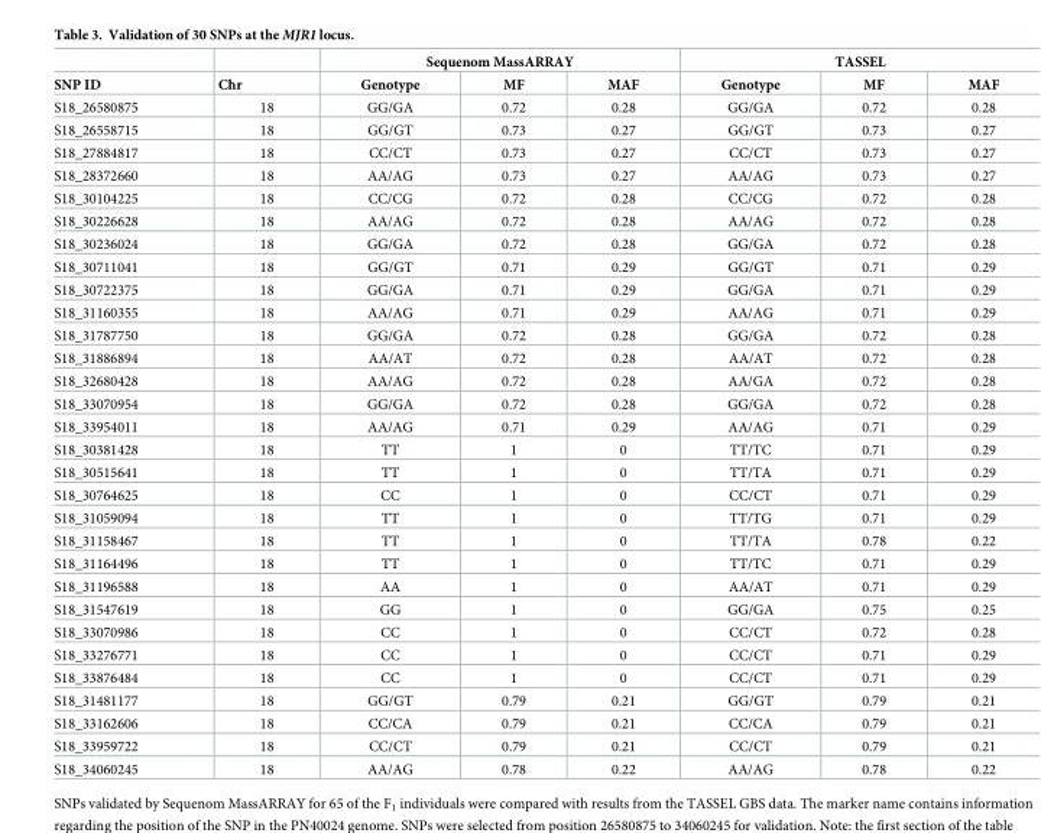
<table><thead><tr><td rowspan="2">SNP ID</td><td rowspan="2">Chr</td><td colspan="3">Sequenom MassARRAY</td><td colspan="3">TASSEL</td></tr><tr><td>Genotype</td><td>MF</td><td>MAF</td><td>Genotype</td><td>MF</td><td>MAF</td></tr></thead><tbody><tr><td>S18_26580875</td><td>18</td><td>GG/GA</td><td>0.72</td><td>0.28</td><td>GG/GA</td><td>0.72</td><td>0.28</td></tr><tr><td>S18_26558715</td><td>18</td><td>GG/GT</td><td>0.73</td><td>0.27</td><td>GG/GT</td><td>0.73</td><td>0.27</td></tr><tr><td>S18_27884817</td><td>18</td><td>CC/CT</td><td>0.73</td><td>0.27</td><td>CC/CT</td><td>0.73</td><td>0.27</td></tr><tr><td>S18_28372660</td><td>18</td><td>AA/AG</td><td>0.73</td><td>0.27</td><td>AA/AG</td><td>0.73</td><td>0.27</td></tr><tr><td>S18_30104225</td><td>18</td><td>CC/CG</td><td>0.72</td><td>0.28</td><td>CC/CG</td><td>0.72</td><td>0.28</td></tr><tr><td>S18_30226628</td><td>18</td><td>AA/AG</td><td>0.72</td><td>0.28</td><td>AA/AG</td><td>0.72</td><td>0.28</td></tr><tr><td>S18_30236024</td><td>18</td><td>GG/GA</td><td>0.72</td><td>0.28</td><td>GG/GA</td><td>0.72</td><td>0.28</td></tr><tr><td>S18_30711041</td><td>18</td><td>GG/GT</td><td>0.71</td><td>0.29</td><td>GG/GT</td><td>0.71</td><td>0.29</td></tr><tr><td>S18_30722375</td><td>18</td><td>GG/GA</td><td>0.71</td><td>0.29</td><td>GG/GA</td><td>0.71</td><td>0.29</td></tr><tr><td>S18_31160355</td><td>18</td><td>AA/AG</td><td>0.71</td><td>0.29</td><td>AA/AG</td><td>0.71</td><td>0.29</td></tr><tr><td>S18_31787750</td><td>18</td><td>GG/GA</td><td>0.72</td><td>0.28</td><td>GG/GA</td><td>0.72</td><td>0.28</td></tr><tr><td>S18_31886894</td><td>18</td><td>AA/AT</td><td>0.72</td><td>0.28</td><td>AA/AT</td><td>0.72</td><td>0.28</td></tr><tr><td>S18_32680428</td><td>18</td><td>AA/AG</td><td>0.72</td><td>0.28</td><td>AA/GA</td><td>0.72</td><td>0.28</td></tr><tr><td>S18_33070954</td><td>18</td><td>GG/GA</td><td>0.72</td><td>0.28</td><td>GG/GA</td><td>0.72</td><td>0.28</td></tr><tr><td>S18_33954011</td><td>18</td><td>AA/AG</td><td>0.71</td><td>0.29</td><td>AA/AG</td><td>0.71</td><td>0.29</td></tr><tr><td>S18_30381428</td><td>18</td><td>TT</td><td>1</td><td>0</td><td>TT/TC</td><td>0.71</td><td>0.29</td></tr><tr><td>S18_30515641</td><td>18</td><td>TT</td><td>1</td><td>0</td><td>TT/TA</td><td>0.71</td><td>0.29</td></tr><tr><td>S18_30764625</td><td>18</td><td>CC</td><td>1</td><td>0</td><td>CC/CT</td><td>0.71</td><td>0.29</td></tr><tr><td>S18_31059094</td><td>18</td><td>TT</td><td>1</td><td>0</td><td>TT/TG</td><td>0.71</td><td>0.29</td></tr><tr><td>S18_31158467</td><td>18</td><td>TT</td><td>1</td><td>0</td><td>TT/TA</td><td>0.78</td><td>0.22</td></tr><tr><td>S18_31164496</td><td>18</td><td>TT</td><td>1</td><td>0</td><td>TT/TC</td><td>0.71</td><td>0.29</td></tr><tr><td>S18_31196588</td><td>18</td><td>AA</td><td>1</td><td>0</td><td>AA/AT</td><td>0.71</td><td>0.29</td></tr><tr><td>S18_31547619</td><td>18</td><td>GG</td><td>1</td><td>0</td><td>GG/GA</td><td>0.75</td><td>0.25</td></tr><tr><td>S18_33070986</td><td>18</td><td>CC</td><td>1</td><td>0</td><td>CC/CT</td><td>0.72</td><td>0.28</td></tr><tr><td>S18_33276771</td><td>18</td><td>CC</td><td>1</td><td>0</td><td>CC/CT</td><td>0.71</td><td>0.29</td></tr><tr><td>S18_33876484</td><td>18</td><td>CC</td><td>1</td><td>0</td><td>CC/CT</td><td>0.71</td><td>0.29</td></tr><tr><td>S18_31481177</td><td>18</td><td>GG/GT</td><td>0.79</td><td>0.21</td><td>GG/GT</td><td>0.79</td><td>0.21</td></tr><tr><td>S18_33162606</td><td>18</td><td>CC/CA</td><td>0.79</td><td>0.21</td><td>CC/CA</td><td>0.79</td><td>0.21</td></tr><tr><td>S18_33959722</td><td>18</td><td>CC/CT</td><td>0.79</td><td>0.21</td><td>CC/CT</td><td>0.79</td><td>0.21</td></tr><tr><td>S18_34060245</td><td>18</td><td>AA/AG</td><td>0.78</td><td>0.22</td><td>AA/AG</td><td>0.78</td><td>0.22</td></tr></tbody></table>